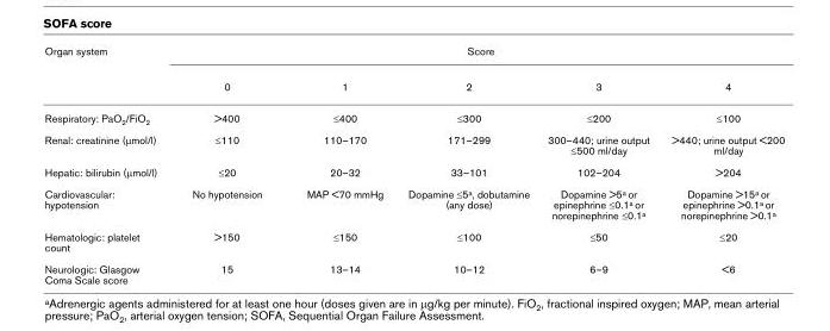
<table><thead><tr><td rowspan="2">Organ system</td><td colspan="5">Score</td></tr><tr><td>0</td><td>1</td><td>2</td><td>3</td><td>4</td></tr></thead><tbody><tr><td>Respiratory: PaO2/FiO2</td><td>&gt;400</td><td>≤400</td><td>≤300</td><td>≤200</td><td>≤100</td></tr><tr><td>Renal: creatinine (µmol/l)</td><td>≤110</td><td>110–170</td><td>171–299</td><td>300–440; urine output ≤500 ml/day</td><td>&gt;440; urine output &lt;200 ml/day</td></tr><tr><td>Hepatic: bilirubin (µmol/l)</td><td>≤20</td><td>20–32</td><td>33–101</td><td>102–204</td><td>&gt;204</td></tr><tr><td>Cardiovascular: hypotension</td><td>No hypotension</td><td>MAP &lt;70 mmHg</td><td>Dopamine ≤5a, dobutamine (any dose)</td><td>Dopamine &gt;5a or epinephrine ≤0.1a or norepinephrine ≤0.1a</td><td>Dopamine &gt;15a or epinephrine &gt;0.1a or norepinephrine &gt;0.1a</td></tr><tr><td>Hematologic: platelet count</td><td>&gt;150</td><td>≤150</td><td>≤100</td><td>≤50</td><td>≤20</td></tr><tr><td>Neurologic: Glasgow Coma Scale score</td><td>15</td><td>13–14</td><td>10–12</td><td>6–9</td><td>&lt;6</td></tr></tbody></table>